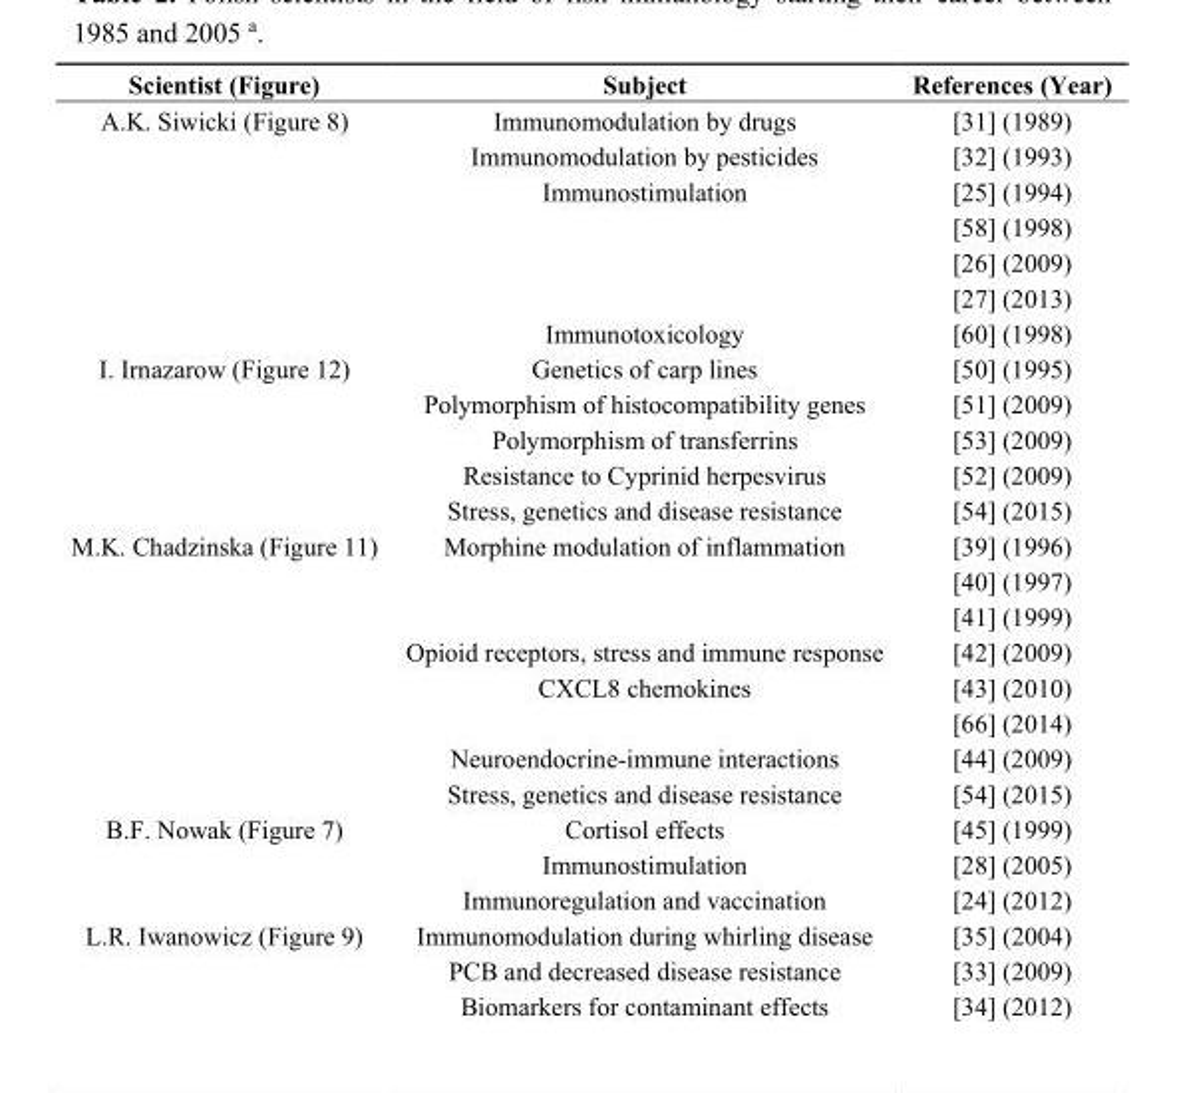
<table><thead><tr><td>Scientist (Figure)</td><td>Subject</td><td>References (Year)</td></tr></thead><tbody><tr><td rowspan="7">A.K. Siwicki (Figure 8)</td><td>Immunomodulation by drugs</td><td>[31] (1989)</td></tr><tr><td>Immunomodulation by pesticides</td><td>[32] (1993)</td></tr><tr><td>Immunostimulation</td><td>[25] (1994)</td></tr><tr><td></td><td>[58] (1998)</td></tr><tr><td></td><td>[26] (2009)</td></tr><tr><td></td><td>[27] (2013)</td></tr><tr><td>Immunotoxicology</td><td>[60] (1998)</td></tr><tr><td rowspan="5">I. Irnazarow (Figure 12)</td><td>Genetics of carp lines</td><td>[50] (1995)</td></tr><tr><td>Polymorphism of histocompatibility genes</td><td>[51] (2009)</td></tr><tr><td>Polymorphism of transferrins</td><td>[53] (2009)</td></tr><tr><td>Resistance to Cyprinid herpesvirus</td><td>[52] (2009)</td></tr><tr><td>Stress, genetics and disease resistance</td><td>[54] (2015)</td></tr><tr><td rowspan="8">M.K. Chadzinska (Figure 11)</td><td>Morphine modulation of inflammation</td><td>[39] (1996)</td></tr><tr><td></td><td>[40] (1997)</td></tr><tr><td></td><td>[41] (1999)</td></tr><tr><td>Opioid receptors, stress and immune response</td><td>[42] (2009)</td></tr><tr><td>CXCL8 chemokines</td><td>[43] (2010)</td></tr><tr><td></td><td>[66] (2014)</td></tr><tr><td>Neuroendocrine-immune interactions</td><td>[44] (2009)</td></tr><tr><td>Stress, genetics and disease resistance</td><td>[54] (2015)</td></tr><tr><td rowspan="3">B.F. Nowak (Figure 7)</td><td>Cortisol effects</td><td>[45] (1999)</td></tr><tr><td>Immunostimulation</td><td>[28] (2005)</td></tr><tr><td>Immunoregulation and vaccination</td><td>[24] (2012)</td></tr><tr><td rowspan="3">L.R. Iwanowicz (Figure 9)</td><td>Immunomodulation during whirling disease</td><td>[35] (2004)</td></tr><tr><td>PCB and decreased disease resistance</td><td>[33] (2009)</td></tr><tr><td>Biomarkers for contaminant effects</td><td>[34] (2012)</td></tr></tbody></table>